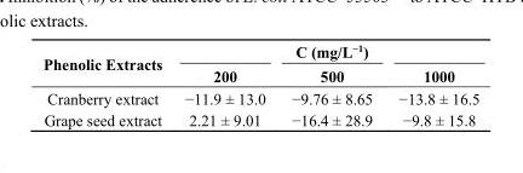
<table><thead><tr><td rowspan="2">Phenolic Extracts</td><td colspan="3">C (mg/L<sup>−1</sup>)</td></tr><tr><td>200</td><td>500</td><td>1000</td></tr></thead><tbody><tr><td>Cranberry extract</td><td>−11.9 ± 13.0</td><td>−9.76 ± 8.65</td><td>−13.8 ± 16.5</td></tr><tr><td>Grape seed extract</td><td>2.21 ± 9.01</td><td>−16.4 ± 28.9</td><td>−9.8 ± 15.8</td></tr></tbody></table>